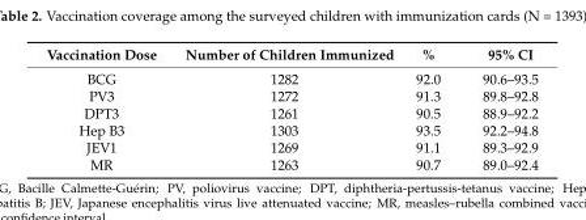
<table><thead><tr><td>Vaccination Dose</td><td>Number of Children Immunized</td><td>%</td><td>95% CI</td></tr></thead><tbody><tr><td>BCG</td><td>1282</td><td>92.0</td><td>90.6–93.5</td></tr><tr><td>PV3</td><td>1272</td><td>91.3</td><td>89.8–92.8</td></tr><tr><td>DPT3</td><td>1261</td><td>90.5</td><td>88.9–92.2</td></tr><tr><td>Hep B3</td><td>1303</td><td>93.5</td><td>92.2–94.8</td></tr><tr><td>JEV1</td><td>1269</td><td>91.1</td><td>89.3–92.9</td></tr><tr><td>MR</td><td>1263</td><td>90.7</td><td>89.0–92.4</td></tr></tbody></table>